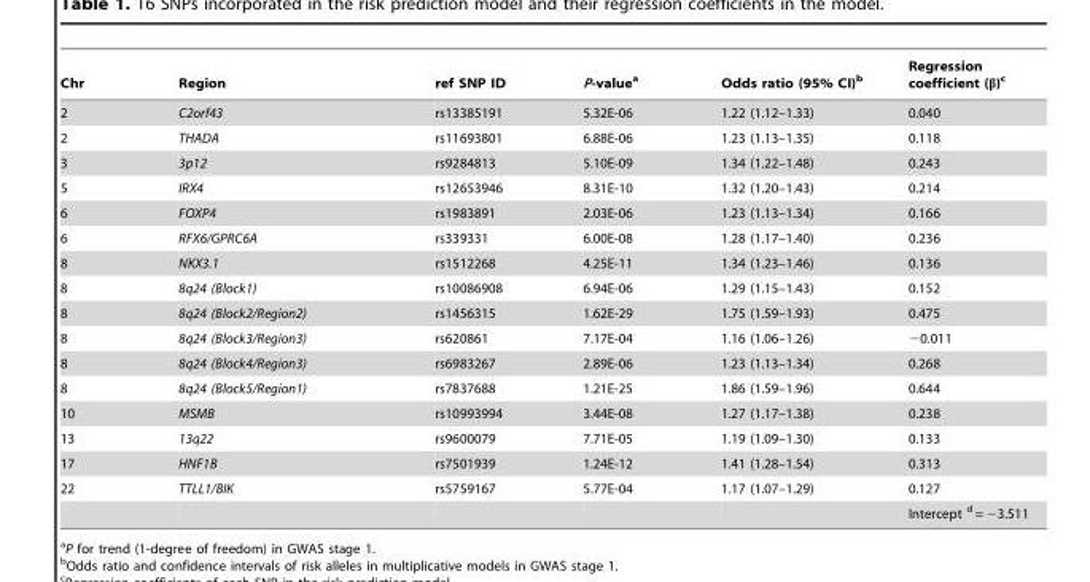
<table><thead><tr><td>Chr</td><td>Region</td><td>ref SNP ID</td><td>P-value<sup>a</sup></td><td>Odds ratio (95% CI)<sup>b</sup></td><td>Regression coefficient (β)<sup>c</sup></td></tr></thead><tbody><tr><td>2</td><td>C2orf43</td><td>rs13385191</td><td>5.32E-06</td><td>1.22 (1.12–1.33)</td><td>0.040</td></tr><tr><td>2</td><td>THADA</td><td>rs11693801</td><td>6.88E-06</td><td>1.23 (1.13–1.35)</td><td>0.118</td></tr><tr><td>3</td><td>3p12</td><td>rs9284813</td><td>5.10E-09</td><td>1.34 (1.22–1.48)</td><td>0.243</td></tr><tr><td>5</td><td>IRX4</td><td>rs12653946</td><td>8.31E-10</td><td>1.32 (1.20–1.43)</td><td>0.214</td></tr><tr><td>6</td><td>FOXP4</td><td>rs1983891</td><td>2.03E-06</td><td>1.23 (1.13–1.34)</td><td>0.166</td></tr><tr><td>6</td><td>RFX6/GPRC6A</td><td>rs339331</td><td>6.00E-08</td><td>1.28 (1.17–1.40)</td><td>0.236</td></tr><tr><td>8</td><td>NKX3.1</td><td>rs1512268</td><td>4.25E-11</td><td>1.34 (1.23–1.46)</td><td>0.136</td></tr><tr><td>8</td><td>8q24 (Block1)</td><td>rs10086908</td><td>6.94E-06</td><td>1.29 (1.15–1.43)</td><td>0.152</td></tr><tr><td>8</td><td>8q24 (Block2/Region2)</td><td>rs1456315</td><td>1.62E-29</td><td>1.75 (1.59–1.93)</td><td>0.475</td></tr><tr><td>8</td><td>8q24 (Block3/Region3)</td><td>rs620861</td><td>7.17E-04</td><td>1.16 (1.06–1.26)</td><td>−0.011</td></tr><tr><td>8</td><td>8q24 (Block4/Region3)</td><td>rs6983267</td><td>2.89E-06</td><td>1.23 (1.13–1.34)</td><td>0.268</td></tr><tr><td>8</td><td>8q24 (Block5/Region1)</td><td>rs7837688</td><td>1.21E-25</td><td>1.86 (1.59–1.96)</td><td>0.644</td></tr><tr><td>10</td><td>MSMB</td><td>rs10993994</td><td>3.44E-08</td><td>1.27 (1.17–1.38)</td><td>0.238</td></tr><tr><td>13</td><td>13q22</td><td>rs9600079</td><td>7.71E-05</td><td>1.19 (1.09–1.30)</td><td>0.133</td></tr><tr><td>17</td><td>HNF1B</td><td>rs7501939</td><td>1.24E-12</td><td>1.41 (1.28–1.54)</td><td>0.313</td></tr><tr><td rowspan="2">22</td><td>TTLL1/BIK</td><td>rs5759167</td><td>5.77E-04</td><td>1.17 (1.07–1.29)</td><td>0.127</td></tr><tr><td></td><td></td><td></td><td></td><td>Intercept d = −3.511</td></tr></tbody></table>